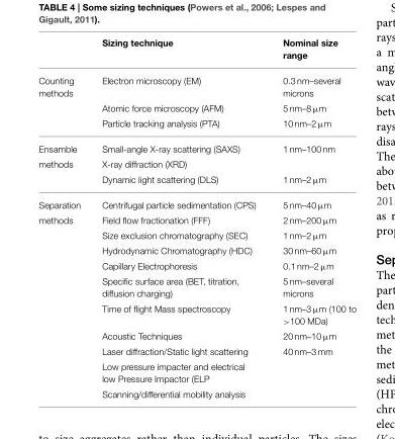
<table><thead><tr><td></td><td>Sizing technique</td><td>Nominal size range</td></tr></thead><tbody><tr><td rowspan="3">Counting methods</td><td>Electron microscopy (EM)</td><td>0.3 nm–several microns</td></tr><tr><td>Atomic force microscopy (AFM)</td><td>5 nm–8 µm</td></tr><tr><td>Particle tracking analysis (PTA)</td><td>10 nm–2 µm</td></tr><tr><td rowspan="3">Ensamble methods</td><td>Small-angle X-ray scattering (SAXS)</td><td>1 nm–100 nm</td></tr><tr><td>X-ray diffraction (XRD)</td><td></td></tr><tr><td>Dynamic light scattering (DLS)</td><td>1 nm–2 µm</td></tr><tr><td rowspan="11">Separation methods</td><td>Centrifugal particle sedimentation (CPS)</td><td>5 nm–40 µm</td></tr><tr><td>Field flow fractionation (FFF)</td><td>2 nm–200 µm</td></tr><tr><td>Size exclusion chromatography (SEC)</td><td>1 nm–2 µm</td></tr><tr><td>Hydrodynamic Chromatography (HDC)</td><td>30 nm–60 µm</td></tr><tr><td>Capillary Electrophoresis</td><td>0.1 nm–2 µm</td></tr><tr><td>Specific surface area (BET, titration, diffusion charging)</td><td>5 nm–several microns</td></tr><tr><td>Time of flight Mass spectroscopy</td><td>1 nm–3 µm (100 to &gt;100 MDa)</td></tr><tr><td>Acoustic Techniques</td><td>20 nm–10 µm</td></tr><tr><td>Laser diffraction/Static light scattering</td><td>40 nm–3 mm</td></tr><tr><td>Low pressure impacter and electrical low Pressure Impactor (ELP</td><td></td></tr><tr><td>Scanning/differential mobility analysis</td><td></td></tr></tbody></table>